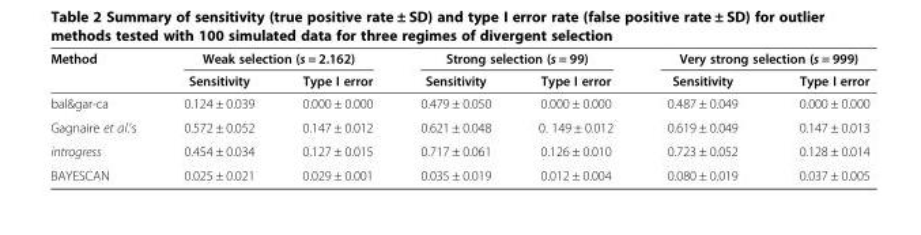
<table><thead><tr><td rowspan="2">Method</td><td colspan="2">Weak selection (s = 2.162)</td><td colspan="2">Strong selection (s = 99)</td><td colspan="2">Very strong selection (s = 999)</td></tr><tr><td>Sensitivity</td><td>Type I error</td><td>Sensitivity</td><td>Type I error</td><td>Sensitivity</td><td>Type I error</td></tr></thead><tbody><tr><td>bal&amp;gar-ca</td><td>0.124 ± 0.039</td><td>0.000 ± 0.000</td><td>0.479 ± 0.050</td><td>0.000 ± 0.000</td><td>0.487 ± 0.049</td><td>0.000 ± 0.000</td></tr><tr><td>Gagnaire et al.’s</td><td>0.572 ± 0.052</td><td>0.147 ± 0.012</td><td>0.621 ± 0.048</td><td>0. 149 ± 0.012</td><td>0.619 ± 0.049</td><td>0.147 ± 0.013</td></tr><tr><td>introgress</td><td>0.454 ± 0.034</td><td>0.127 ± 0.015</td><td>0.717 ± 0.061</td><td>0.126 ± 0.010</td><td>0.723 ± 0.052</td><td>0.128 ± 0.014</td></tr><tr><td>BAYESCAN</td><td>0.025 ± 0.021</td><td>0.029 ± 0.001</td><td>0.035 ± 0.019</td><td>0.012 ± 0.004</td><td>0.080 ± 0.019</td><td>0.037 ± 0.005</td></tr></tbody></table>